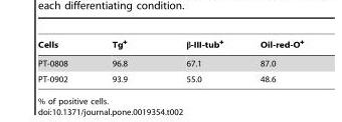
<table><thead><tr><td>Cells</td><td>Tg<sup>+</sup></td><td>β-III-tub<sup>+</sup></td><td>Oil-red-O<sup>+</sup></td></tr></thead><tbody><tr><td>PT-0808</td><td>96.8</td><td>67.1</td><td>87.0</td></tr><tr><td>PT-0902</td><td>93.9</td><td>55.0</td><td>48.6</td></tr></tbody></table>